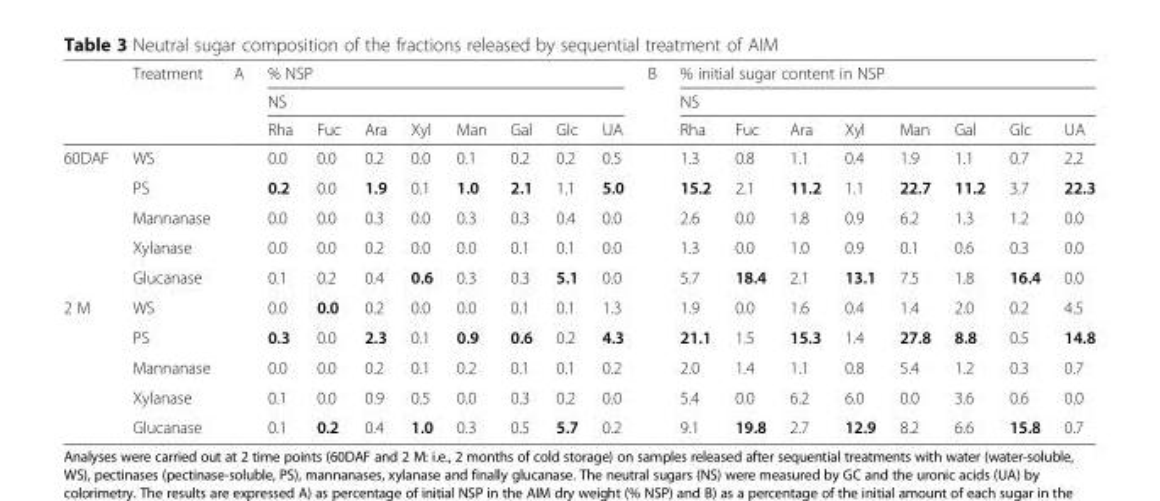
<table><thead><tr><td rowspan="3"></td><td rowspan="3">Treatment</td><td rowspan="3">A</td><td rowspan="2" colspan="8">% NSP NS</td><td rowspan="3">B</td><td rowspan="2" colspan="8">% initial sugar content in NSP NS</td></tr><tr></tr><tr><td>Rha</td><td>Fuc</td><td>Ara</td><td>Xyl</td><td>Man</td><td>Gal</td><td>Glc</td><td>UA</td><td>Rha</td><td>Fuc</td><td>Ara</td><td>Xyl</td><td>Man</td><td>Gal</td><td>Glc</td><td>UA</td></tr></thead><tbody><tr><td rowspan="5">60DAF</td><td>WS</td><td rowspan="10"></td><td>0.0</td><td>0.0</td><td>0.2</td><td>0.0</td><td>0.1</td><td>0.2</td><td>0.2</td><td>0.5</td><td rowspan="10"></td><td>1.3</td><td>0.8</td><td>1.1</td><td>0.4</td><td>1.9</td><td>1.1</td><td>0.7</td><td>2.2</td></tr><tr><td>PS</td><td>0.2</td><td>0.0</td><td>1.9</td><td>0.1</td><td>1.0</td><td>2.1</td><td>1.1</td><td>5.0</td><td>15.2</td><td>2.1</td><td>11.2</td><td>1.1</td><td>22.7</td><td>11.2</td><td>3.7</td><td>22.3</td></tr><tr><td>Mannanase</td><td>0.0</td><td>0.0</td><td>0.3</td><td>0.0</td><td>0.3</td><td>0.3</td><td>0.4</td><td>0.0</td><td>2.6</td><td>0.0</td><td>1.8</td><td>0.9</td><td>6.2</td><td>1.3</td><td>1.2</td><td>0.0</td></tr><tr><td>Xylanase</td><td>0.0</td><td>0.0</td><td>0.2</td><td>0.0</td><td>0.0</td><td>0.1</td><td>0.1</td><td>0.0</td><td>1.3</td><td>0.0</td><td>1.0</td><td>0.9</td><td>0.1</td><td>0.6</td><td>0.3</td><td>0.0</td></tr><tr><td>Glucanase</td><td>0.1</td><td>0.2</td><td>0.4</td><td>0.6</td><td>0.3</td><td>0.3</td><td>5.1</td><td>0.0</td><td>5.7</td><td>18.4</td><td>2.1</td><td>13.1</td><td>7.5</td><td>1.8</td><td>16.4</td><td>0.0</td></tr><tr><td rowspan="5">2 M</td><td>WS</td><td>0.0</td><td>0.0</td><td>0.2</td><td>0.0</td><td>0.0</td><td>0.1</td><td>0.1</td><td>1.3</td><td>1.9</td><td>0.0</td><td>1.6</td><td>0.4</td><td>1.4</td><td>2.0</td><td>0.2</td><td>4.5</td></tr><tr><td>PS</td><td>0.3</td><td>0.0</td><td>2.3</td><td>0.1</td><td>0.9</td><td>0.6</td><td>0.2</td><td>4.3</td><td>21.1</td><td>1.5</td><td>15.3</td><td>1.4</td><td>27.8</td><td>8.8</td><td>0.5</td><td>14.8</td></tr><tr><td>Mannanase</td><td>0.0</td><td>0.0</td><td>0.2</td><td>0.1</td><td>0.2</td><td>0.1</td><td>0.1</td><td>0.2</td><td>2.0</td><td>1.4</td><td>1.1</td><td>0.8</td><td>5.4</td><td>1.2</td><td>0.3</td><td>0.7</td></tr><tr><td>Xylanase</td><td>0.1</td><td>0.0</td><td>0.9</td><td>0.5</td><td>0.0</td><td>0.3</td><td>0.2</td><td>0.0</td><td>5.4</td><td>0.0</td><td>6.2</td><td>6.0</td><td>0.0</td><td>3.6</td><td>0.6</td><td>0.0</td></tr><tr><td>Glucanase</td><td>0.1</td><td>0.2</td><td>0.4</td><td>1.0</td><td>0.3</td><td>0.5</td><td>5.7</td><td>0.2</td><td>9.1</td><td>19.8</td><td>2.7</td><td>12.9</td><td>8.2</td><td>6.6</td><td>15.8</td><td>0.7</td></tr></tbody></table>